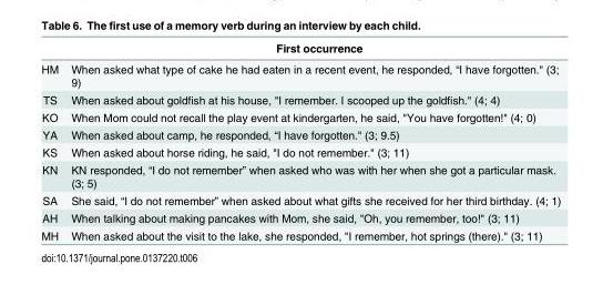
<table><thead><tr><td></td><td>First occurrence</td></tr></thead><tbody><tr><td>HM</td><td>When asked what type of cake he had eaten in a recent event, he responded, “I have forgotten.&quot; (3; 9)</td></tr><tr><td>TS</td><td>When asked about goldfish at his house, &quot;I remember. I scooped up the goldfish.&quot; (4; 4)</td></tr><tr><td>KO</td><td>When Mom could not recall the play event at kindergarten, he said, &quot;You have forgotten!&quot; (4; 0)</td></tr><tr><td>YA</td><td>When asked about camp, he responded, “I have forgotten.&quot; (3; 9.5)</td></tr><tr><td>KS</td><td>When asked about horse riding, he said, &quot;I do not remember.&quot; (3; 11)</td></tr><tr><td>KN</td><td>KN responded, “I do not remember” when asked who was with her when she got a particular mask. (3; 5)</td></tr><tr><td>SA</td><td>She said, “I do not remember” when asked about what gifts she received for her third birthday. (4; 1)</td></tr><tr><td>AH</td><td>When talking about making pancakes with Mom, she said, &quot;Oh, you remember, too!&quot; (3; 11)</td></tr><tr><td>MH</td><td>When asked about the visit to the lake, she responded, &quot;I remember, hot springs (there).&quot; (3; 11)</td></tr></tbody></table>